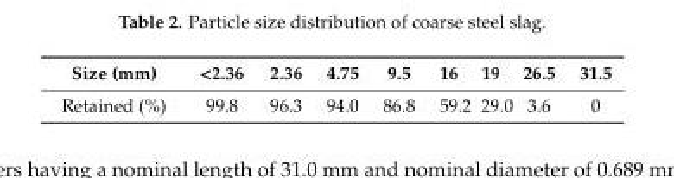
<table><thead><tr><td>Size (mm)</td><td>&lt;2.36</td><td>2.36</td><td>4.75</td><td>9.5</td><td>16</td><td>19</td><td>26.5</td><td>31.5</td></tr></thead><tbody><tr><td>Retained (%)</td><td>99.8</td><td>96.3</td><td>94.0</td><td>86.8</td><td>59.2</td><td>29.0</td><td>3.6</td><td>0</td></tr></tbody></table>